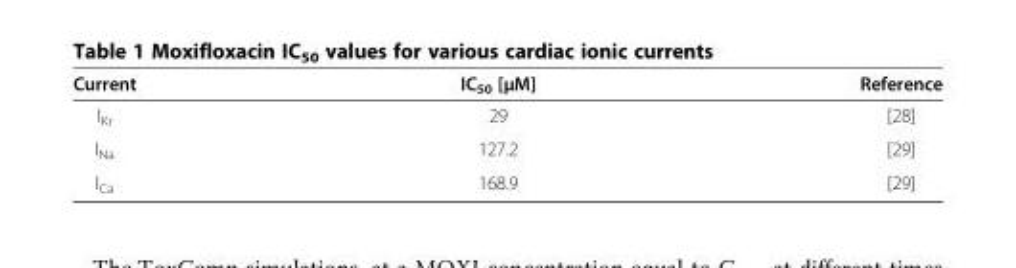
<table><thead><tr><td>Current</td><td>IC<sub>50</sub> [μM]</td><td>Reference</td></tr></thead><tbody><tr><td>I<sub>Kr</sub></td><td>29</td><td>[28]</td></tr><tr><td>I<sub>Na</sub></td><td>127.2</td><td>[29]</td></tr><tr><td>I<sub>Ca</sub></td><td>168.9</td><td>[29]</td></tr></tbody></table>